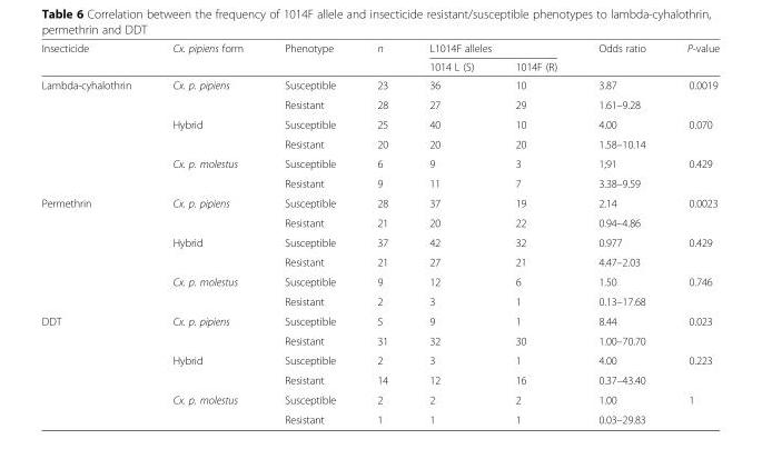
<table><thead><tr><td rowspan="2">Insecticide</td><td rowspan="2">Cx. pipiens form</td><td rowspan="2">Phenotype</td><td rowspan="2">n</td><td colspan="2">L1014F alleles</td><td rowspan="2">Odds ratio</td><td rowspan="2">P-value</td></tr><tr><td>1014 L (S)</td><td>1014F (R)</td></tr></thead><tbody><tr><td rowspan="6">Lambda-cyhalothrin</td><td rowspan="2">Cx. p. pipiens</td><td>Susceptible</td><td>23</td><td>36</td><td>10</td><td>3.87</td><td>0.0019</td></tr><tr><td>Resistant</td><td>28</td><td>27</td><td>29</td><td>1.61–9.28</td><td></td></tr><tr><td rowspan="2">Hybrid</td><td>Susceptible</td><td>25</td><td>40</td><td>10</td><td>4.00</td><td>0.070</td></tr><tr><td>Resistant</td><td>20</td><td>20</td><td>20</td><td>1.58–10.14</td><td></td></tr><tr><td rowspan="2">Cx. p. molestus</td><td>Susceptible</td><td>6</td><td>9</td><td>3</td><td>1;91</td><td>0.429</td></tr><tr><td>Resistant</td><td>9</td><td>11</td><td>7</td><td>3.38–9.59</td><td></td></tr><tr><td rowspan="6">Permethrin</td><td rowspan="2">Cx. p. pipiens</td><td>Susceptible</td><td>28</td><td>37</td><td>19</td><td>2.14</td><td>0.0023</td></tr><tr><td>Resistant</td><td>21</td><td>20</td><td>22</td><td>0.94–4.86</td><td></td></tr><tr><td rowspan="2">Hybrid</td><td>Susceptible</td><td>37</td><td>42</td><td>32</td><td>0.977</td><td>0.429</td></tr><tr><td>Resistant</td><td>21</td><td>27</td><td>21</td><td>4.47–2.03</td><td></td></tr><tr><td rowspan="2">Cx. p. molestus</td><td>Susceptible</td><td>9</td><td>12</td><td>6</td><td>1.50</td><td>0.746</td></tr><tr><td>Resistant</td><td>2</td><td>3</td><td>1</td><td>0.13–17.68</td><td></td></tr><tr><td rowspan="6">DDT</td><td rowspan="2">Cx. p. pipiens</td><td>Susceptible</td><td>5</td><td>9</td><td>1</td><td>8.44</td><td>0.023</td></tr><tr><td>Resistant</td><td>31</td><td>32</td><td>30</td><td>1.00–70.70</td><td></td></tr><tr><td rowspan="2">Hybrid</td><td>Susceptible</td><td>2</td><td>3</td><td>1</td><td>4.00</td><td>0.223</td></tr><tr><td>Resistant</td><td>14</td><td>12</td><td>16</td><td>0.37–43.40</td><td></td></tr><tr><td rowspan="2">Cx. p. molestus</td><td>Susceptible</td><td>2</td><td>2</td><td>2</td><td>1.00</td><td>1</td></tr><tr><td>Resistant</td><td>1</td><td>1</td><td>1</td><td>0.03–29.83</td><td></td></tr></tbody></table>